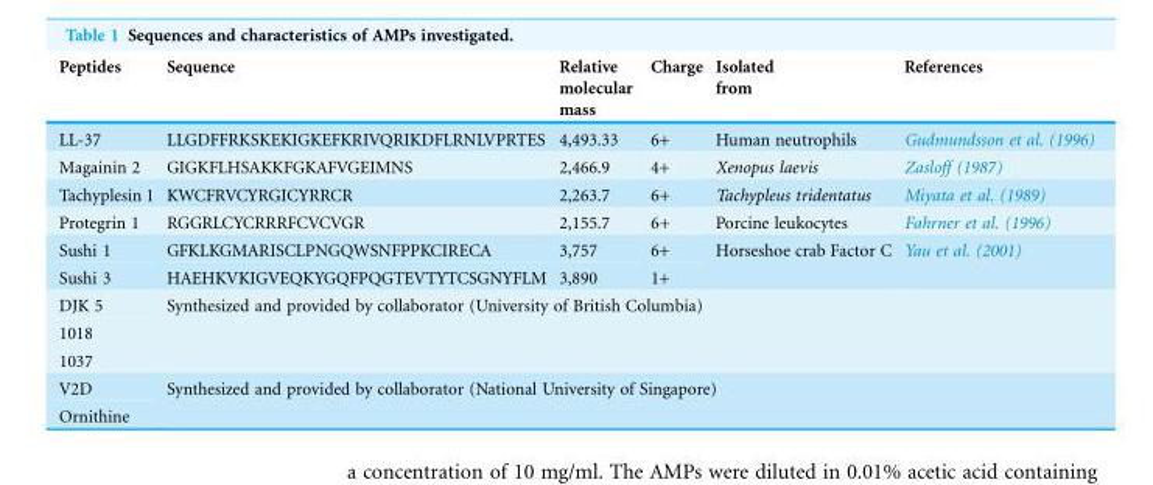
<table><thead><tr><td>Peptides</td><td>Sequence</td><td>Relative molecular mass</td><td>Charge</td><td>Isolated from</td><td>References</td></tr></thead><tbody><tr><td>LL-37</td><td>LLGDFFRKSKEKIGKEFKRIVQRIKDFLRNLVPRTES</td><td>4,493.33</td><td>6+</td><td>Human neutrophils</td><td>Gudmundsson et al. (1996)</td></tr><tr><td>Magainin 2</td><td>GIGKFLHSAKKFGKAFVGEIMNS</td><td>2,466.9</td><td>4+</td><td>Xenopus laevis</td><td>Zasloff (1987)</td></tr><tr><td>Tachyplesin 1</td><td>KWCFRVCYRGICYRRCR</td><td>2,263.7</td><td>6+</td><td>Tachypleus tridentatus</td><td>Miyata et al. (1989)</td></tr><tr><td>Protegrin 1</td><td>RGGRLCYCRRRFCVCVGR</td><td>2,155.7</td><td>6+</td><td>Porcine leukocytes</td><td>Fahrner et al. (1996)</td></tr><tr><td>Sushi 1</td><td>GFKLKGMARISCLPNGQWSNFPPKCIRECA</td><td>3,757</td><td>6+</td><td rowspan="2">Horseshoe crab Factor C</td><td rowspan="2">Yau et al. (2001)</td></tr><tr><td>Sushi 3</td><td>HAEHKVKIGVEQKYGQFPQGTEVTYTCSGNYFLM</td><td>3,890</td><td>1+</td></tr><tr><td>DJK 5</td><td rowspan="3" colspan="5">Synthesized and provided by collaborator (University of British Columbia)</td></tr><tr><td>1018</td></tr><tr><td>1037</td></tr><tr><td>V2D</td><td rowspan="2" colspan="5">Synthesized and provided by collaborator (National University of Singapore)</td></tr><tr><td>Ornithine</td></tr></tbody></table>